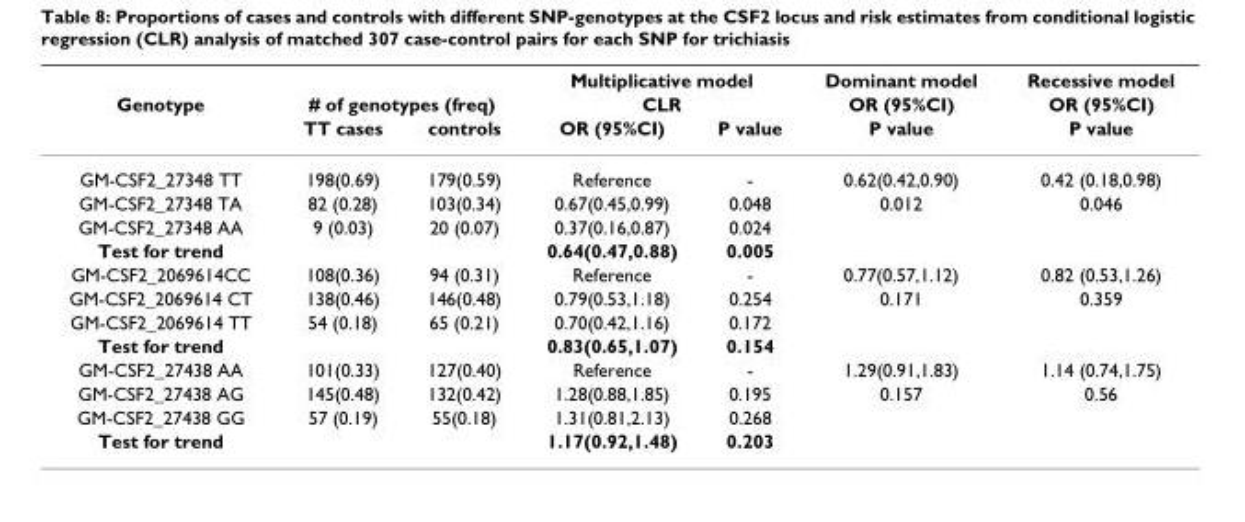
<table><thead><tr><td rowspan="3">Genotype</td><td></td><td></td><td rowspan="2" colspan="2">Multiplicative model CLR</td><td rowspan="3">Dominant model OR (95%CI) P value</td><td rowspan="3">Recessive model OR (95%CI) P value</td></tr><tr><td colspan="2"># of genotypes (freq)</td></tr><tr><td>TT cases</td><td>controls</td><td>OR (95%CI)</td><td>P value</td></tr></thead><tbody><tr><td>GM-CSF2_27348 TT</td><td>198(0.69)</td><td>179(0.59)</td><td>Reference</td><td>-</td><td>0.62(0.42,0.90)</td><td>0.42 (0.18,0.98)</td></tr><tr><td>GM-CSF2_27348 TA</td><td>82 (0.28)</td><td>103(0.34)</td><td>0.67(0.45,0.99)</td><td>0.048</td><td>0.012</td><td>0.046</td></tr><tr><td>GM-CSF2_27348 AA</td><td>9 (0.03)</td><td>20 (0.07)</td><td>0.37(0.16,0.87)</td><td>0.024</td><td></td><td></td></tr><tr><td>Test for trend</td><td></td><td></td><td>0.64(0.47,0.88)</td><td>0.005</td><td></td><td></td></tr><tr><td>GM-CSF2_2069614CC</td><td>108(0.36)</td><td>94 (0.31)</td><td>Reference</td><td>-</td><td>0.77(0.57,1.12)</td><td>0.82 (0.53,1.26)</td></tr><tr><td>GM-CSF2_2069614 CT</td><td>138(0.46)</td><td>146(0.48)</td><td>0.79(0.53,1.18)</td><td>0.254</td><td>0.171</td><td>0.359</td></tr><tr><td>GM-CSF2_2069614 TT</td><td>54 (0.18)</td><td>65 (0.21)</td><td>0.70(0.42,1.16)</td><td>0.172</td><td></td><td></td></tr><tr><td>Test for trend</td><td></td><td></td><td>0.83(0.65,1.07)</td><td>0.154</td><td></td><td></td></tr><tr><td>GM-CSF2_27438 AA</td><td>101(0.33)</td><td>127(0.40)</td><td>Reference</td><td>-</td><td>1.29(0.91,1.83)</td><td>1.14 (0.74,1.75)</td></tr><tr><td>GM-CSF2_27438 AG</td><td>145(0.48)</td><td>132(0.42)</td><td>1.28(0.88,1.85)</td><td>0.195</td><td>0.157</td><td>0.56</td></tr><tr><td>GM-CSF2_27438 GG</td><td>57 (0.19)</td><td>55(0.18)</td><td>1.31(0.81,2.13)</td><td>0.268</td><td></td><td></td></tr><tr><td>Test for trend</td><td></td><td></td><td>1.17(0.92,1.48)</td><td>0.203</td><td></td><td></td></tr></tbody></table>